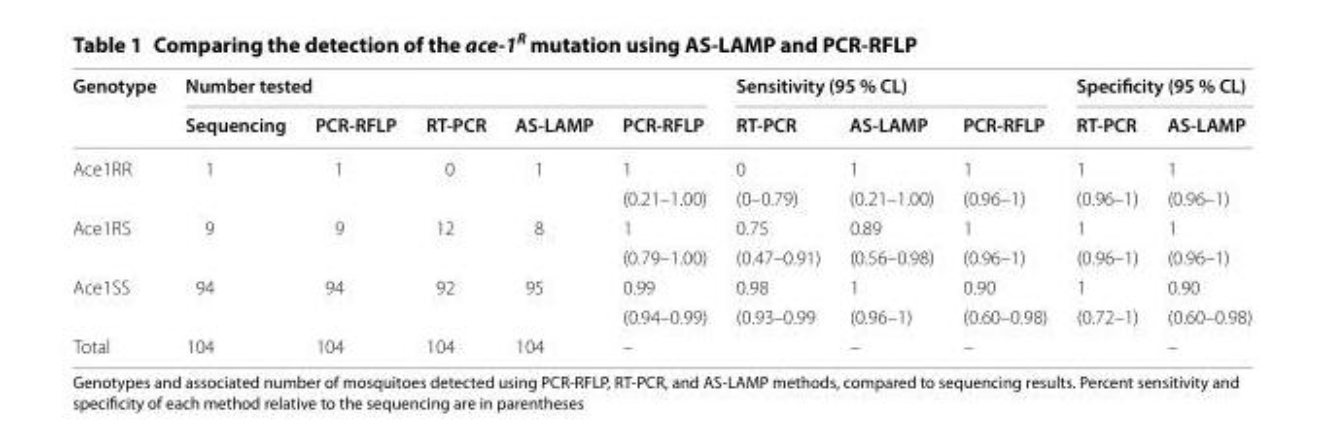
<table><thead><tr><td rowspan="2">Genotype</td><td colspan="5">Number tested</td><td colspan="3">Sensitivity (95 % CL)</td><td colspan="2">Specificity (95 % CL)</td></tr><tr><td>Sequencing</td><td>PCR‑RFLP</td><td>RT‑PCR</td><td>AS‑LAMP</td><td>PCR‑RFLP</td><td>RT‑PCR</td><td>AS‑LAMP</td><td>PCR‑RFLP</td><td>RT‑PCR</td><td>AS‑LAMP</td></tr></thead><tbody><tr><td rowspan="2">Ace1RR</td><td>1</td><td>1</td><td>0</td><td>1</td><td>1</td><td>0</td><td>1</td><td>1</td><td>1</td><td>1</td></tr><tr><td></td><td></td><td></td><td></td><td>(0.21–1.00)</td><td>(0–0.79)</td><td>(0.21–1.00)</td><td>(0.96–1)</td><td>(0.96–1)</td><td>(0.96–1)</td></tr><tr><td rowspan="2">Ace1RS</td><td>9</td><td>9</td><td>12</td><td>8</td><td>1</td><td>0.75</td><td>0.89</td><td>1</td><td>1</td><td>1</td></tr><tr><td></td><td></td><td></td><td></td><td>(0.79–1.00)</td><td>(0.47–0.91)</td><td>(0.56–0.98)</td><td>(0.96–1)</td><td>(0.96–1)</td><td>(0.96–1)</td></tr><tr><td rowspan="2">Ace1SS</td><td>94</td><td>94</td><td>92</td><td>95</td><td>0.99</td><td>0.98</td><td>1</td><td>0.90</td><td>1</td><td>0.90</td></tr><tr><td></td><td></td><td></td><td></td><td>(0.94–0.99)</td><td>(0.93–0.99</td><td>(0.96–1)</td><td>(0.60–0.98)</td><td>(0.72–1)</td><td>(0.60–0.98)</td></tr><tr><td>Total</td><td>104</td><td>104</td><td>104</td><td>104</td><td>–</td><td></td><td>–</td><td>–</td><td></td><td>–</td></tr></tbody></table>